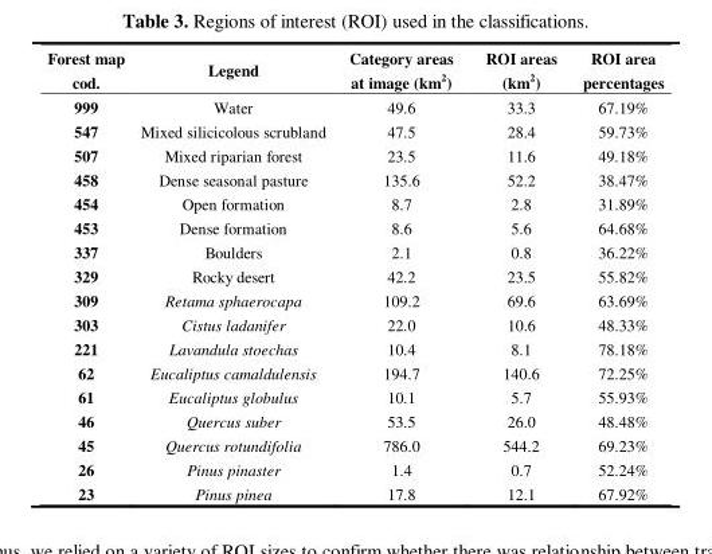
<table><thead><tr><td>Forest map cod.</td><td>Legend</td><td>Category areas at image (km<sup>2</sup>)</td><td>ROI areas (km<sup>2</sup>)</td><td>ROI area percentages</td></tr></thead><tbody><tr><td>999</td><td>Water</td><td>49.6</td><td>33.3</td><td>67.19%</td></tr><tr><td>547</td><td>Mixed silicicolous scrubland</td><td>47.5</td><td>28.4</td><td>59.73%</td></tr><tr><td>507</td><td>Mixed riparian forest</td><td>23.5</td><td>11.6</td><td>49.18%</td></tr><tr><td>458</td><td>Dense seasonal pasture</td><td>135.6</td><td>52.2</td><td>38.47%</td></tr><tr><td>454</td><td>Open formation</td><td>8.7</td><td>2.8</td><td>31.89%</td></tr><tr><td>453</td><td>Dense formation</td><td>8.6</td><td>5.6</td><td>64.68%</td></tr><tr><td>337</td><td>Boulders</td><td>2.1</td><td>0.8</td><td>36.22%</td></tr><tr><td>329</td><td>Rocky desert</td><td>42.2</td><td>23.5</td><td>55.82%</td></tr><tr><td>309</td><td>Retama sphaerocapa</td><td>109.2</td><td>69.6</td><td>63.69%</td></tr><tr><td>303</td><td>Cistus ladanifer</td><td>22.0</td><td>10.6</td><td>48.33%</td></tr><tr><td>221</td><td>Lavandula stoechas</td><td>10.4</td><td>8.1</td><td>78.18%</td></tr><tr><td>62</td><td>Eucaliptus camaldulensis</td><td>194.7</td><td>140.6</td><td>72.25%</td></tr><tr><td>61</td><td>Eucaliptus globulus</td><td>10.1</td><td>5.7</td><td>55.93%</td></tr><tr><td>46</td><td>Quercus suber</td><td>53.5</td><td>26.0</td><td>48.48%</td></tr><tr><td>45</td><td>Quercus rotundifolia</td><td>786.0</td><td>544.2</td><td>69.23%</td></tr><tr><td>26</td><td>Pinus pinaster</td><td>1.4</td><td>0.7</td><td>52.24%</td></tr><tr><td>23</td><td>Pinus pinea</td><td>17.8</td><td>12.1</td><td>67.92%</td></tr></tbody></table>